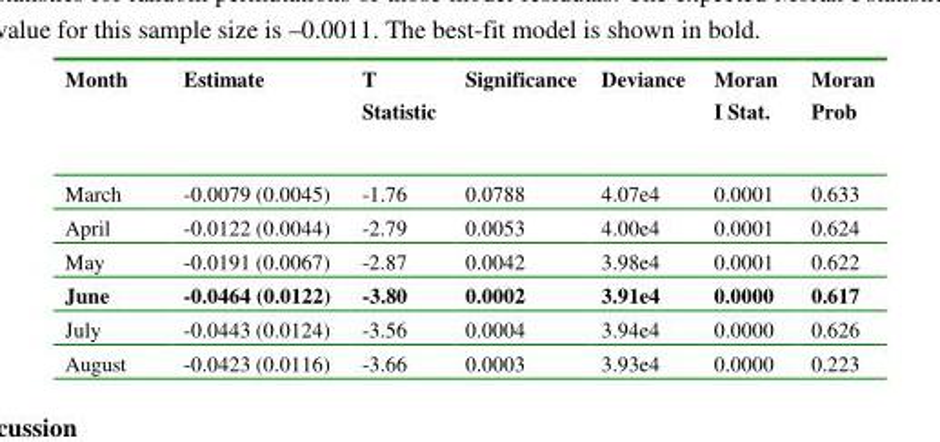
<table><thead><tr><td>Month</td><td>Estimate</td><td>T Statistic</td><td>Significance</td><td>Deviance</td><td>Moran I Stat.</td><td>Moran Prob</td></tr></thead><tbody><tr><td>March</td><td>-0.0079 (0.0045)</td><td>-1.76</td><td>0.0788</td><td>4.07e4</td><td>0.0001</td><td>0.633</td></tr><tr><td>April</td><td>-0.0122 (0.0044)</td><td>-2.79</td><td>0.0053</td><td>4.00e4</td><td>0.0001</td><td>0.624</td></tr><tr><td>May</td><td>-0.0191 (0.0067)</td><td>-2.87</td><td>0.0042</td><td>3.98e4</td><td>0.0001</td><td>0.622</td></tr><tr><td>June</td><td>-0.0464 (0.0122)</td><td>-3.80</td><td>0.0002</td><td>3.91e4</td><td>0.0000</td><td>0.617</td></tr><tr><td>July</td><td>-0.0443 (0.0124)</td><td>-3.56</td><td>0.0004</td><td>3.94e4</td><td>0.0000</td><td>0.626</td></tr><tr><td>August</td><td>-0.0423 (0.0116)</td><td>-3.66</td><td>0.0003</td><td>3.93e4</td><td>0.0000</td><td>0.223</td></tr></tbody></table>